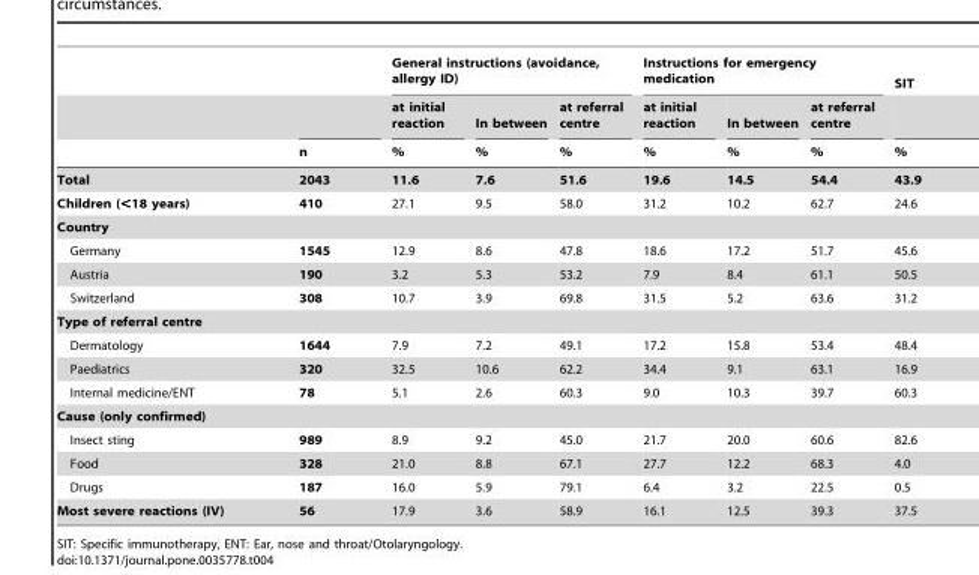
<table><thead><tr><td rowspan="3"></td><td rowspan="3">n</td><td colspan="3">General instructions (avoidance, allergy ID)</td><td colspan="3">Instructions for emergency medication</td><td rowspan="3">SIT %</td></tr><tr><td rowspan="2">at initial reaction %</td><td rowspan="2">In between %</td><td rowspan="2">at referral centre %</td><td rowspan="2">at initial reaction %</td><td rowspan="2">In between %</td><td rowspan="2">at referral centre %</td></tr><tr></tr></thead><tbody><tr><td>Total</td><td>2043</td><td>11.6</td><td>7.6</td><td>51.6</td><td>19.6</td><td>14.5</td><td>54.4</td><td>43.9</td></tr><tr><td>Children (&lt;18 years)</td><td>410</td><td>27.1</td><td>9.5</td><td>58.0</td><td>31.2</td><td>10.2</td><td>62.7</td><td>24.6</td></tr><tr><td colspan="9">Country</td></tr><tr><td>Germany</td><td>1545</td><td>12.9</td><td>8.6</td><td>47.8</td><td>18.6</td><td>17.2</td><td>51.7</td><td>45.6</td></tr><tr><td>Austria</td><td>190</td><td>3.2</td><td>5.3</td><td>53.2</td><td>7.9</td><td>8.4</td><td>61.1</td><td>50.5</td></tr><tr><td>Switzerland</td><td>308</td><td>10.7</td><td>3.9</td><td>69.8</td><td>31.5</td><td>5.2</td><td>63.6</td><td>31.2</td></tr><tr><td colspan="9">Type of referral centre</td></tr><tr><td>Dermatology</td><td>1644</td><td>7.9</td><td>7.2</td><td>49.1</td><td>17.2</td><td>15.8</td><td>53.4</td><td>48.4</td></tr><tr><td>Paediatrics</td><td>320</td><td>32.5</td><td>10.6</td><td>62.2</td><td>34.4</td><td>9.1</td><td>63.1</td><td>16.9</td></tr><tr><td>Internal medicine/ENT</td><td>78</td><td>5.1</td><td>2.6</td><td>60.3</td><td>9.0</td><td>10.3</td><td>39.7</td><td>60.3</td></tr><tr><td colspan="9">Cause (only confirmed)</td></tr><tr><td>Insect sting</td><td>989</td><td>8.9</td><td>9.2</td><td>45.0</td><td>21.7</td><td>20.0</td><td>60.6</td><td>82.6</td></tr><tr><td>Food</td><td>328</td><td>21.0</td><td>8.8</td><td>67.1</td><td>27.7</td><td>12.2</td><td>68.3</td><td>4.0</td></tr><tr><td>Drugs</td><td>187</td><td>16.0</td><td>5.9</td><td>79.1</td><td>6.4</td><td>3.2</td><td>22.5</td><td>0.5</td></tr><tr><td>Most severe reactions (IV)</td><td>56</td><td>17.9</td><td>3.6</td><td>58.9</td><td>16.1</td><td>12.5</td><td>39.3</td><td>37.5</td></tr></tbody></table>